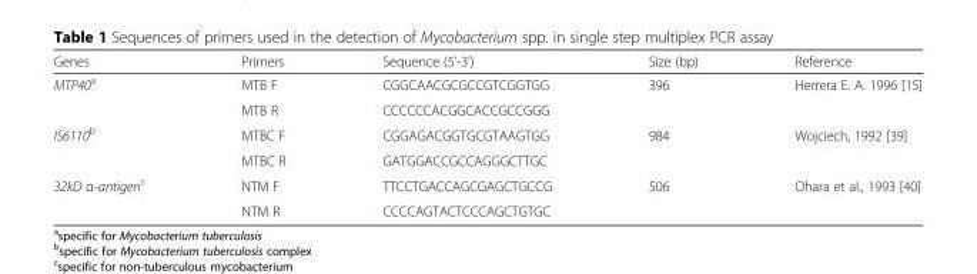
<table><thead><tr><td>Genes</td><td>Primers</td><td>Sequence (5’-3’)</td><td>Size (bp)</td><td>Reference</td></tr></thead><tbody><tr><td rowspan="2">MTP40<sup>a</sup></td><td>MTB F</td><td>CGGCAACGCGCCGTCGGTGG</td><td>396</td><td>Herrera E. A. 1996 [15]</td></tr><tr><td>MTB R</td><td>CCCCCCACGGCACCGCCGGG</td><td></td><td></td></tr><tr><td rowspan="2">IS6110<sup>b</sup></td><td>MTBC F</td><td>CGGAGACGGTGCGTAAGTGG</td><td>984</td><td>Wojciech, 1992 [39]</td></tr><tr><td>MTBC R</td><td>GATGGACCGCCAGGGCTTGC</td><td></td><td></td></tr><tr><td rowspan="2">32kD α-antigen<sup>c</sup></td><td>NTM F</td><td>TTCCTGACCAGCGAGCTGCCG</td><td>506</td><td>Ohara et al., 1993 [40]</td></tr><tr><td>NTM R</td><td>CCCCAGTACTCCCAGCTGTGC</td><td></td><td></td></tr></tbody></table>